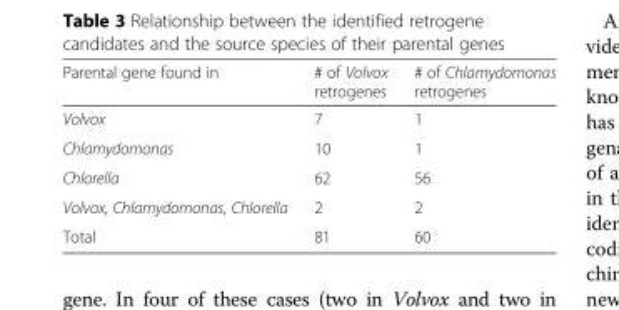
<table><thead><tr><td>Parental gene found in</td><td># of Volvox retrogenes</td><td># of Chlamydomonas retrogenes</td></tr></thead><tbody><tr><td>Volvox</td><td>7</td><td>1</td></tr><tr><td>Chlamydomonas</td><td>10</td><td>1</td></tr><tr><td>Chlorella</td><td>62</td><td>56</td></tr><tr><td>Volvox, Chlamydomonas, Chlorella</td><td>2</td><td>2</td></tr><tr><td>Total</td><td>81</td><td>60</td></tr></tbody></table>